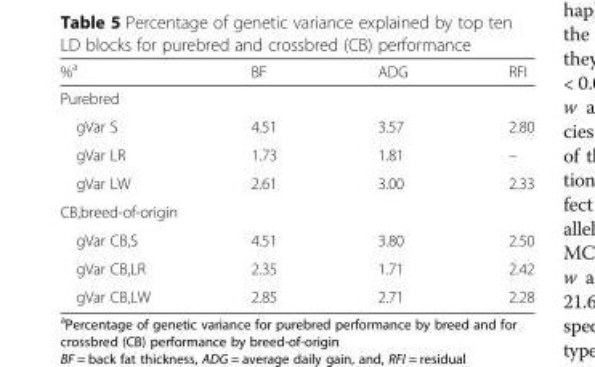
<table><thead><tr><td>%<sup>a</sup></td><td>BF</td><td>ADG</td><td>RFI</td></tr></thead><tbody><tr><td colspan="4">Purebred</td></tr><tr><td>gVar S</td><td>4.51</td><td>3.57</td><td>2.80</td></tr><tr><td>gVar LR</td><td>1.73</td><td>1.81</td><td>–</td></tr><tr><td>gVar LW</td><td>2.61</td><td>3.00</td><td>2.33</td></tr><tr><td colspan="4">CB,breed-of-origin</td></tr><tr><td>gVar CB,S</td><td>4.51</td><td>3.80</td><td>2.50</td></tr><tr><td>gVar CB,LR</td><td>2.35</td><td>1.71</td><td>2.42</td></tr><tr><td>gVar CB,LW</td><td>2.85</td><td>2.71</td><td>2.28</td></tr></tbody></table>